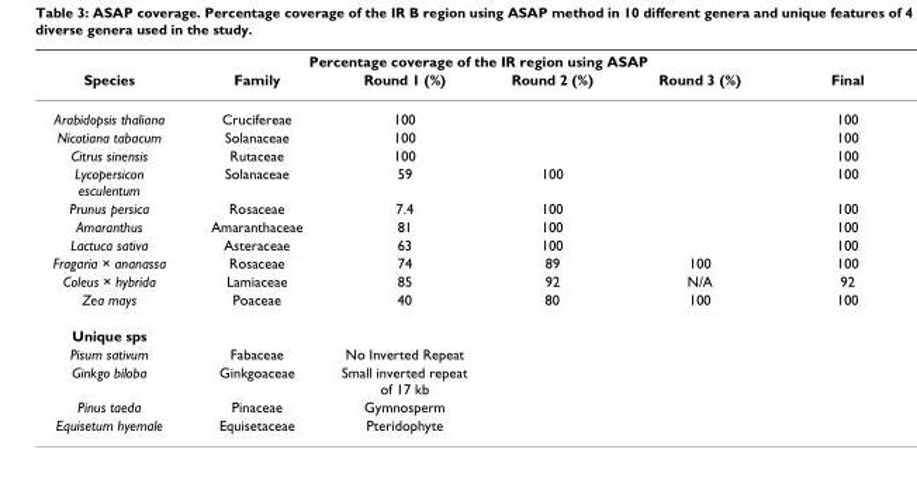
<table><thead><tr><td colspan="6">Percentage coverage of the IR region using ASAP</td></tr><tr><td>Species</td><td>Family</td><td>Round 1 (%)</td><td>Round 2 (%)</td><td>Round 3 (%)</td><td>Final</td></tr></thead><tbody><tr><td>Arabidopsis thaliana</td><td>Crucifereae</td><td>100</td><td></td><td></td><td>100</td></tr><tr><td>Nicotiana tabacum</td><td>Solanaceae</td><td>100</td><td></td><td></td><td>100</td></tr><tr><td>Citrus sinensis</td><td>Rutaceae</td><td>100</td><td></td><td></td><td>100</td></tr><tr><td>Lycopersicon esculentum</td><td>Solanaceae</td><td>59</td><td>100</td><td></td><td>100</td></tr><tr><td>Prunus persica</td><td>Rosaceae</td><td>7.4</td><td>100</td><td></td><td>100</td></tr><tr><td>Amaranthus</td><td>Amaranthaceae</td><td>81</td><td>100</td><td></td><td>100</td></tr><tr><td>Lactuca sativa</td><td>Asteraceae</td><td>63</td><td>100</td><td></td><td>100</td></tr><tr><td>Fragaria × ananassa</td><td>Rosaceae</td><td>74</td><td>89</td><td>100</td><td>100</td></tr><tr><td>Coleus × hybrida</td><td>Lamiaceae</td><td>85</td><td>92</td><td>N/A</td><td>92</td></tr><tr><td>Zea mays</td><td>Poaceae</td><td>40</td><td>80</td><td>100</td><td>100</td></tr><tr><td colspan="6">Unique sps</td></tr><tr><td>Pisum sativum</td><td>Fabaceae</td><td>No Inverted Repeat</td><td></td><td></td><td></td></tr><tr><td>Ginkgo biloba</td><td>Ginkgoaceae</td><td>Small inverted repeat of 17 kb</td><td></td><td></td><td></td></tr><tr><td>Pinus taeda</td><td>Pinaceae</td><td>Gymnosperm</td><td></td><td></td><td></td></tr><tr><td>Equisetum hyemale</td><td>Equisetaceae</td><td>Pteridophyte</td><td></td><td></td><td></td></tr></tbody></table>